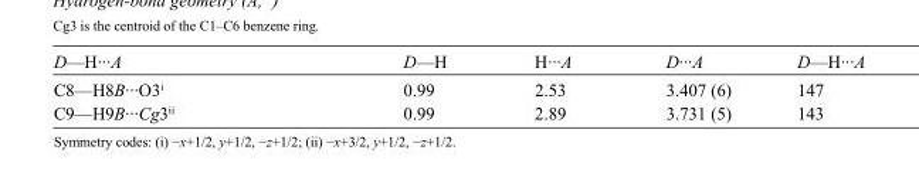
<table><tbody><tr><td>D—H···A</td><td>D—H</td><td>H···A</td><td>D···A</td><td>D—H···A</td></tr><tr><td>C8—H8B···O3<sup>i</sup></td><td>0.99</td><td>2.53</td><td>3.407 (6)</td><td>147</td></tr><tr><td>C9—H9B···Cg3<sup>ii</sup></td><td>0.99</td><td>2.89</td><td>3.731 (5)</td><td>143</td></tr></tbody></table>